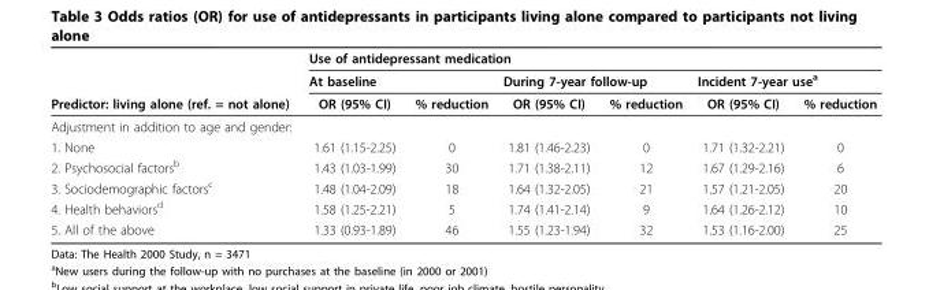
<table><thead><tr><td rowspan="3">Predictor: living alone (ref. = not alone)</td><td colspan="6">Use of antidepressant medication</td></tr><tr><td colspan="2">At baseline</td><td colspan="2">During 7-year follow-up</td><td colspan="2">Incident 7-year use<sup>a</sup></td></tr><tr><td>OR (95% CI)</td><td>% reduction</td><td>OR (95% CI)</td><td>% reduction</td><td>OR (95% CI)</td><td>% reduction</td></tr></thead><tbody><tr><td colspan="7">Adjustment in addition to age and gender:</td></tr><tr><td>1. None</td><td>1.61 (1.15-2.25)</td><td>0</td><td>1.81 (1.46-2.23)</td><td>0</td><td>1.71 (1.32-2.21)</td><td>0</td></tr><tr><td>2. Psychosocial factors<sup>b</sup></td><td>1.43 (1.03-1.99)</td><td>30</td><td>1.71 (1.38-2.11)</td><td>12</td><td>1.67 (1.29-2.16)</td><td>6</td></tr><tr><td>3. Sociodemographic factors<sup>c</sup></td><td>1.48 (1.04-2.09)</td><td>18</td><td>1.64 (1.32-2.05)</td><td>21</td><td>1.57 (1.21-2.05)</td><td>20</td></tr><tr><td>4. Health behaviors<sup>d</sup></td><td>1.58 (1.25-2.21)</td><td>5</td><td>1.74 (1.41-2.14)</td><td>9</td><td>1.64 (1.26-2.12)</td><td>10</td></tr><tr><td>5. All of the above</td><td>1.33 (0.93-1.89)</td><td>46</td><td>1.55 (1.23-1.94)</td><td>32</td><td>1.53 (1.16-2.00)</td><td>25</td></tr></tbody></table>